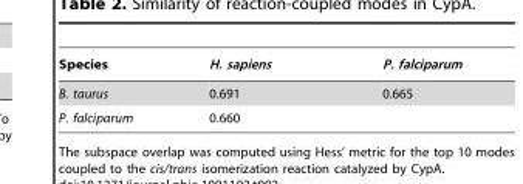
<table><thead><tr><td>Species</td><td>H. sapiens</td><td>P. falciparum</td></tr></thead><tbody><tr><td>B. taurus</td><td>0.691</td><td>0.665</td></tr><tr><td>P. falciparum</td><td>0.660</td><td></td></tr></tbody></table>